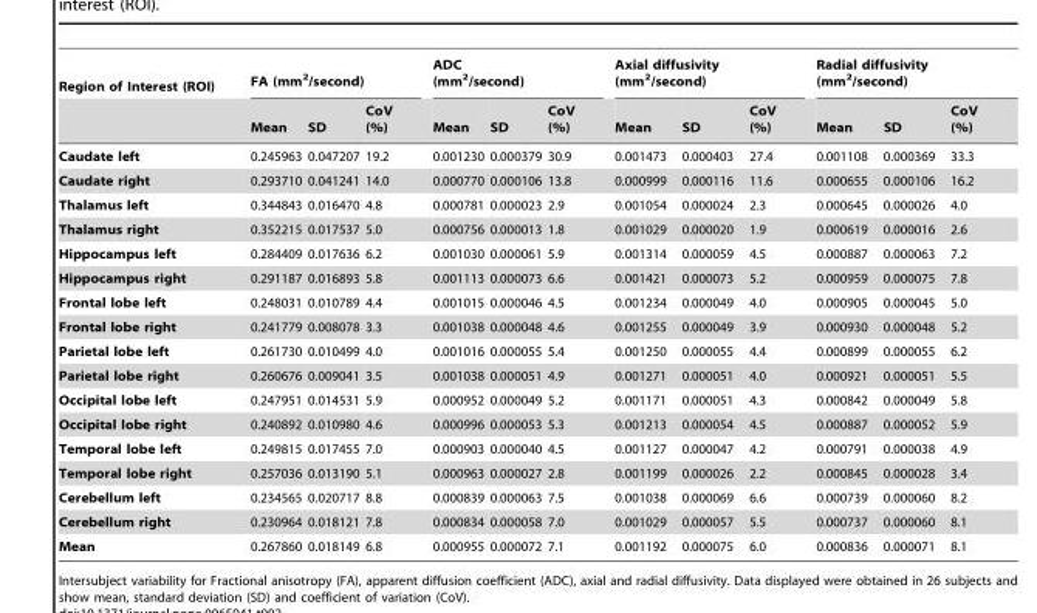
<table><thead><tr><td rowspan="2">Region of Interest (ROI)</td><td colspan="3">FA (mm<sup>2</sup>/second)</td><td colspan="3">ADC (mm<sup>2</sup>/second)</td><td colspan="3">Axial diffusivity (mm<sup>2</sup>/second)</td><td colspan="3">Radial diffusivity (mm<sup>2</sup>/second)</td></tr><tr><td>Mean</td><td>SD</td><td>CoV (%)</td><td>Mean</td><td>SD</td><td>CoV (%)</td><td>Mean</td><td>SD</td><td>CoV (%)</td><td>Mean</td><td>SD</td><td>CoV (%)</td></tr></thead><tbody><tr><td>Caudate left</td><td>0.245963</td><td>0.047207</td><td>19.2</td><td>0.001230</td><td>0.000379</td><td>30.9</td><td>0.001473</td><td>0.000403</td><td>27.4</td><td>0.001108</td><td>0.000369</td><td>33.3</td></tr><tr><td>Caudate right</td><td>0.293710</td><td>0.041241</td><td>14.0</td><td>0.000770</td><td>0.000106</td><td>13.8</td><td>0.000999</td><td>0.000116</td><td>11.6</td><td>0.000655</td><td>0.000106</td><td>16.2</td></tr><tr><td>Thalamus left</td><td>0.344843</td><td>0.016470</td><td>4.8</td><td>0.000781</td><td>0.000023</td><td>2.9</td><td>0.001054</td><td>0.000024</td><td>2.3</td><td>0.000645</td><td>0.000026</td><td>4.0</td></tr><tr><td>Thalamus right</td><td>0.352215</td><td>0.017537</td><td>5.0</td><td>0.000756</td><td>0.000013</td><td>1.8</td><td>0.001029</td><td>0.000020</td><td>1.9</td><td>0.000619</td><td>0.000016</td><td>2.6</td></tr><tr><td>Hippocampus left</td><td>0.284409</td><td>0.017636</td><td>6.2</td><td>0.001030</td><td>0.000061</td><td>5.9</td><td>0.001314</td><td>0.000059</td><td>4.5</td><td>0.000887</td><td>0.000063</td><td>7.2</td></tr><tr><td>Hippocampus right</td><td>0.291187</td><td>0.016893</td><td>5.8</td><td>0.001113</td><td>0.000073</td><td>6.6</td><td>0.001421</td><td>0.000073</td><td>5.2</td><td>0.000959</td><td>0.000075</td><td>7.8</td></tr><tr><td>Frontal lobe left</td><td>0.248031</td><td>0.010789</td><td>4.4</td><td>0.001015</td><td>0.000046</td><td>4.5</td><td>0.001234</td><td>0.000049</td><td>4.0</td><td>0.000905</td><td>0.000045</td><td>5.0</td></tr><tr><td>Frontal lobe right</td><td>0.241779</td><td>0.008078</td><td>3.3</td><td>0.001038</td><td>0.000048</td><td>4.6</td><td>0.001255</td><td>0.000049</td><td>3.9</td><td>0.000930</td><td>0.000048</td><td>5.2</td></tr><tr><td>Parietal lobe left</td><td>0.261730</td><td>0.010499</td><td>4.0</td><td>0.001016</td><td>0.000055</td><td>5.4</td><td>0.001250</td><td>0.000055</td><td>4.4</td><td>0.000899</td><td>0.000055</td><td>6.2</td></tr><tr><td>Parietal lobe right</td><td>0.260676</td><td>0.009041</td><td>3.5</td><td>0.001038</td><td>0.000051</td><td>4.9</td><td>0.001271</td><td>0.000051</td><td>4.0</td><td>0.000921</td><td>0.000051</td><td>5.5</td></tr><tr><td>Occipital lobe left</td><td>0.247951</td><td>0.014531</td><td>5.9</td><td>0.000952</td><td>0.000049</td><td>5.2</td><td>0.001171</td><td>0.000051</td><td>4.3</td><td>0.000842</td><td>0.000049</td><td>5.8</td></tr><tr><td>Occipital lobe right</td><td>0.240892</td><td>0.010980</td><td>4.6</td><td>0.000996</td><td>0.000053</td><td>5.3</td><td>0.001213</td><td>0.000054</td><td>4.5</td><td>0.000887</td><td>0.000052</td><td>5.9</td></tr><tr><td>Temporal lobe left</td><td>0.249815</td><td>0.017455</td><td>7.0</td><td>0.000903</td><td>0.000040</td><td>4.5</td><td>0.001127</td><td>0.000047</td><td>4.2</td><td>0.000791</td><td>0.000038</td><td>4.9</td></tr><tr><td>Temporal lobe right</td><td>0.257036</td><td>0.013190</td><td>5.1</td><td>0.000963</td><td>0.000027</td><td>2.8</td><td>0.001199</td><td>0.000026</td><td>2.2</td><td>0.000845</td><td>0.000028</td><td>3.4</td></tr><tr><td>Cerebellum left</td><td>0.234565</td><td>0.020717</td><td>8.8</td><td>0.000839</td><td>0.000063</td><td>7.5</td><td>0.001038</td><td>0.000069</td><td>6.6</td><td>0.000739</td><td>0.000060</td><td>8.2</td></tr><tr><td>Cerebellum right</td><td>0.230964</td><td>0.018121</td><td>7.8</td><td>0.000834</td><td>0.000058</td><td>7.0</td><td>0.001029</td><td>0.000057</td><td>5.5</td><td>0.000737</td><td>0.000060</td><td>8.1</td></tr><tr><td>Mean</td><td>0.267860</td><td>0.018149</td><td>6.8</td><td>0.000955</td><td>0.000072</td><td>7.1</td><td>0.001192</td><td>0.000075</td><td>6.0</td><td>0.000836</td><td>0.000071</td><td>8.1</td></tr></tbody></table>